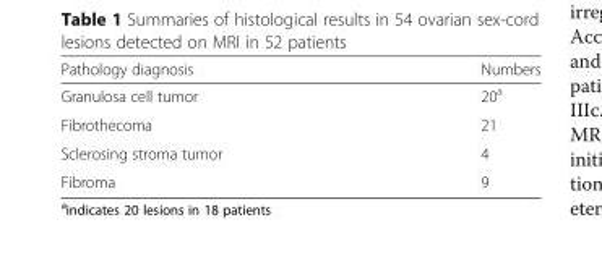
<table><thead><tr><td>Pathology diagnosis</td><td>Numbers</td></tr></thead><tbody><tr><td>Granulosa cell tumor</td><td>20<sup>a</sup></td></tr><tr><td>Fibrothecoma</td><td>21</td></tr><tr><td>Sclerosing stroma tumor</td><td>4</td></tr><tr><td>Fibroma</td><td>9</td></tr></tbody></table>